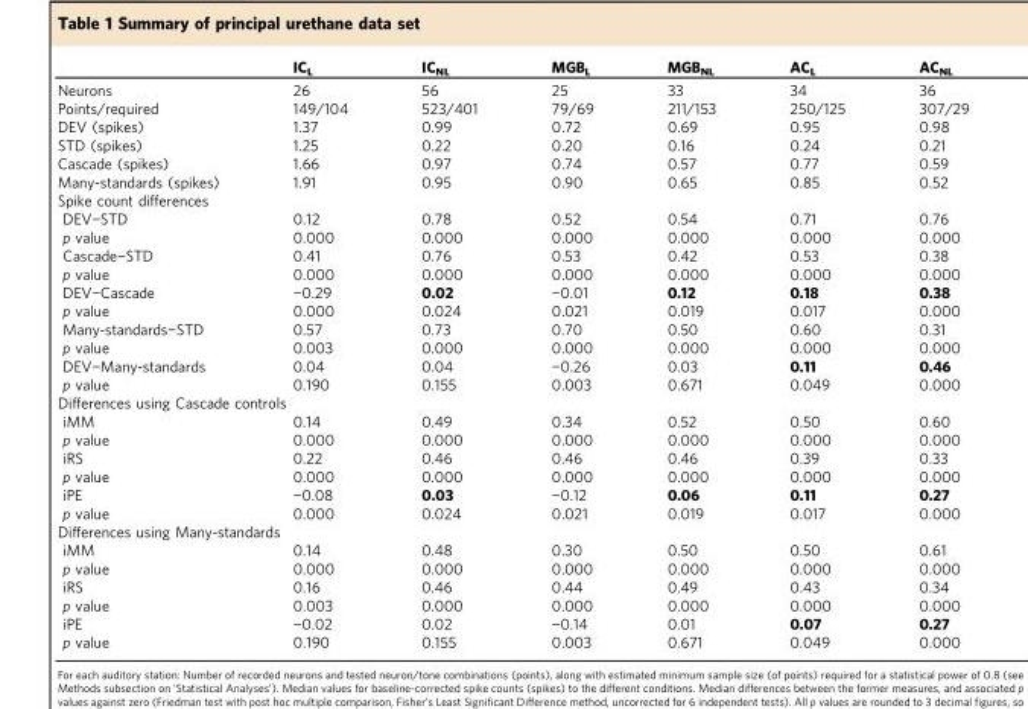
<table><thead><tr><td></td><td>IC<sub>L</sub></td><td>IC<sub>NL</sub></td><td>MGB<sub>L</sub></td><td>MGB<sub>NL</sub></td><td>AC<sub>L</sub></td><td>AC<sub>NL</sub></td></tr></thead><tbody><tr><td>Neurons</td><td>26</td><td>56</td><td>25</td><td>33</td><td>34</td><td>36</td></tr><tr><td>Points/required</td><td>149/104</td><td>523/401</td><td>79/69</td><td>211/153</td><td>250/125</td><td>307/29</td></tr><tr><td>DEV (spikes)</td><td>1.37</td><td>0.99</td><td>0.72</td><td>0.69</td><td>0.95</td><td>0.98</td></tr><tr><td>STD (spikes)</td><td>1.25</td><td>0.22</td><td>0.20</td><td>0.16</td><td>0.24</td><td>0.21</td></tr><tr><td>Cascade (spikes)</td><td>1.66</td><td>0.97</td><td>0.74</td><td>0.57</td><td>0.77</td><td>0.59</td></tr><tr><td>Many-standards (spikes)</td><td>1.91</td><td>0.95</td><td>0.90</td><td>0.65</td><td>0.85</td><td>0.52</td></tr><tr><td colspan="7">Spike count differences</td></tr><tr><td>DEV−STD</td><td>0.12</td><td>0.78</td><td>0.52</td><td>0.54</td><td>0.71</td><td>0.76</td></tr><tr><td>p value</td><td>0.000</td><td>0.000</td><td>0.000</td><td>0.000</td><td>0.000</td><td>0.000</td></tr><tr><td>Cascade−STD</td><td>0.41</td><td>0.76</td><td>0.53</td><td>0.42</td><td>0.53</td><td>0.38</td></tr><tr><td>p value</td><td>0.000</td><td>0.000</td><td>0.000</td><td>0.000</td><td>0.000</td><td>0.000</td></tr><tr><td>DEV−Cascade</td><td>−0.29</td><td>0.02</td><td>−0.01</td><td>0.12</td><td>0.18</td><td>0.38</td></tr><tr><td>p value</td><td>0.000</td><td>0.024</td><td>0.021</td><td>0.019</td><td>0.017</td><td>0.000</td></tr><tr><td>Many-standards−STD</td><td>0.57</td><td>0.73</td><td>0.70</td><td>0.50</td><td>0.60</td><td>0.31</td></tr><tr><td>p value</td><td>0.003</td><td>0.000</td><td>0.000</td><td>0.000</td><td>0.000</td><td>0.000</td></tr><tr><td>DEV−Many-standards</td><td>0.04</td><td>0.04</td><td>−0.26</td><td>0.03</td><td>0.11</td><td>0.46</td></tr><tr><td>p value</td><td>0.190</td><td>0.155</td><td>0.003</td><td>0.671</td><td>0.049</td><td>0.000</td></tr><tr><td colspan="7">Differences using Cascade controls</td></tr><tr><td>iMM</td><td>0.14</td><td>0.49</td><td>0.34</td><td>0.52</td><td>0.50</td><td>0.60</td></tr><tr><td>p value</td><td>0.000</td><td>0.000</td><td>0.000</td><td>0.000</td><td>0.000</td><td>0.000</td></tr><tr><td>iRS</td><td>0.22</td><td>0.46</td><td>0.46</td><td>0.46</td><td>0.39</td><td>0.33</td></tr><tr><td>p value</td><td>0.000</td><td>0.000</td><td>0.000</td><td>0.000</td><td>0.000</td><td>0.000</td></tr><tr><td>iPE</td><td>−0.08</td><td>0.03</td><td>−0.12</td><td>0.06</td><td>0.11</td><td>0.27</td></tr><tr><td>p value</td><td>0.000</td><td>0.024</td><td>0.021</td><td>0.019</td><td>0.017</td><td>0.000</td></tr><tr><td colspan="7">Differences using Many-standards</td></tr><tr><td>iMM</td><td>0.14</td><td>0.48</td><td>0.30</td><td>0.50</td><td>0.50</td><td>0.61</td></tr><tr><td>p value</td><td>0.000</td><td>0.000</td><td>0.000</td><td>0.000</td><td>0.000</td><td>0.000</td></tr><tr><td>iRS</td><td>0.16</td><td>0.46</td><td>0.44</td><td>0.49</td><td>0.43</td><td>0.34</td></tr><tr><td>p value</td><td>0.003</td><td>0.000</td><td>0.000</td><td>0.000</td><td>0.000</td><td>0.000</td></tr><tr><td>iPE</td><td>−0.02</td><td>0.02</td><td>−0.14</td><td>0.01</td><td>0.07</td><td>0.27</td></tr><tr><td>p value</td><td>0.190</td><td>0.155</td><td>0.003</td><td>0.671</td><td>0.049</td><td>0.000</td></tr></tbody></table>